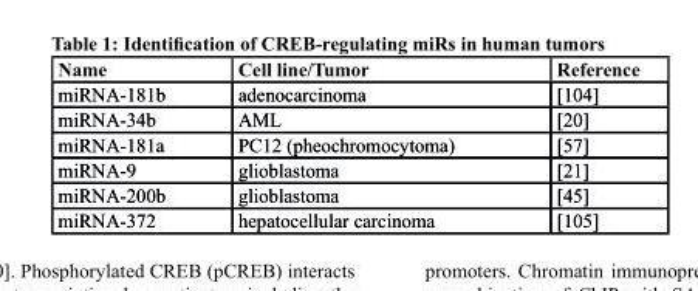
<table><thead><tr><td>Name</td><td>Cell line/Tumor</td><td>Reference</td></tr></thead><tbody><tr><td>miRNA-181b</td><td>adenocarcinoma</td><td>[104]</td></tr><tr><td>miRNA-34b</td><td>AML</td><td>[20]</td></tr><tr><td>miRNA-181a</td><td>PC12 (pheochromocytoma)</td><td>[57]</td></tr><tr><td>miRNA-9</td><td>glioblastoma</td><td>[21]</td></tr><tr><td>miRNA-200b</td><td>glioblastoma</td><td>[45]</td></tr><tr><td>miRNA-372</td><td>hepatocellular carcinoma</td><td>[105]</td></tr></tbody></table>